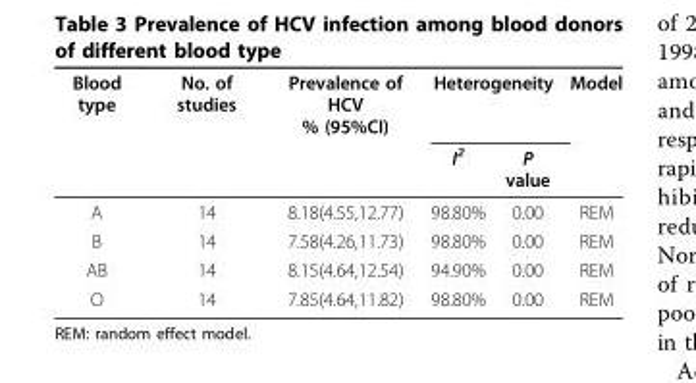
<table><thead><tr><td rowspan="2">Blood type</td><td rowspan="2">No. of studies</td><td rowspan="2">Prevalence of HCV % (95%CI)</td><td colspan="2">Heterogeneity</td><td rowspan="2">Model</td></tr><tr><td>I<sup>2</sup></td><td>P value</td></tr></thead><tbody><tr><td>A</td><td>14</td><td>8.18(4.55,12.77)</td><td>98.80%</td><td>0.00</td><td>REM</td></tr><tr><td>B</td><td>14</td><td>7.58(4.26,11.73)</td><td>98.80%</td><td>0.00</td><td>REM</td></tr><tr><td>AB</td><td>14</td><td>8.15(4.64,12.54)</td><td>94.90%</td><td>0.00</td><td>REM</td></tr><tr><td>O</td><td>14</td><td>7.85(4.64,11.82)</td><td>98.80%</td><td>0.00</td><td>REM</td></tr></tbody></table>